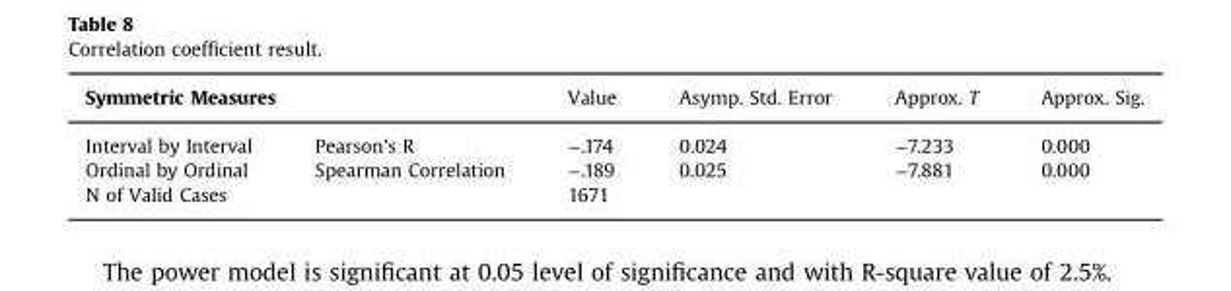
<table><thead><tr><td colspan="2">Symmetric Measures</td><td rowspan="2">Value −.174</td><td rowspan="2">Asymp. Std. Error 0.024</td><td rowspan="2">Approx. T −7.233</td><td rowspan="2">Approx. Sig. 0.000</td></tr><tr><td>Interval by Interval</td><td>Pearson&#x27;s R</td></tr></thead><tbody><tr><td>Ordinal by Ordinal</td><td>Spearman Correlation</td><td>−.189</td><td>0.025</td><td>−7.881</td><td>0.000</td></tr><tr><td colspan="2">N of Valid Cases</td><td>1671</td><td></td><td></td><td></td></tr></tbody></table>